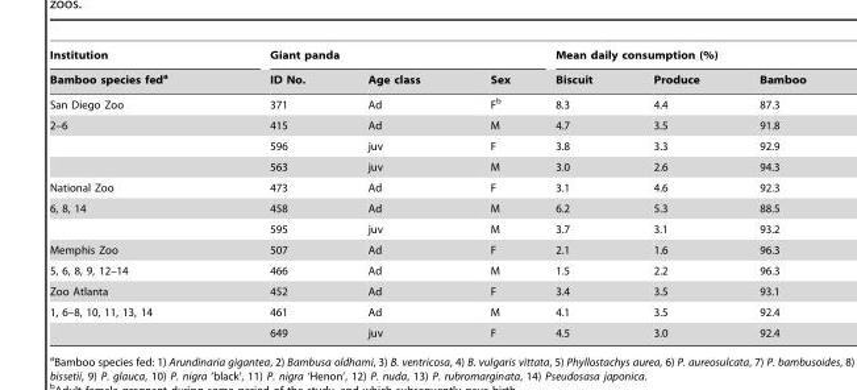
<table><thead><tr><td rowspan="2">Institution Bamboo species fed<sup>a</sup></td><td colspan="3">Giant panda</td><td colspan="3">Mean daily consumption (%)</td></tr><tr><td>ID No.</td><td>Age class</td><td>Sex</td><td>Biscuit</td><td>Produce</td><td>Bamboo</td></tr></thead><tbody><tr><td>San Diego Zoo</td><td>371</td><td>Ad</td><td>F<sup>b</sup></td><td>8.3</td><td>4.4</td><td>87.3</td></tr><tr><td rowspan="3">2–6</td><td>415</td><td>Ad</td><td>M</td><td>4.7</td><td>3.5</td><td>91.8</td></tr><tr><td>596</td><td>juv</td><td>F</td><td>3.8</td><td>3.3</td><td>92.9</td></tr><tr><td>563</td><td>juv</td><td>M</td><td>3.0</td><td>2.6</td><td>94.3</td></tr><tr><td>National Zoo</td><td>473</td><td>Ad</td><td>F</td><td>3.1</td><td>4.6</td><td>92.3</td></tr><tr><td rowspan="2">6, 8, 14</td><td>458</td><td>Ad</td><td>M</td><td>6.2</td><td>5.3</td><td>88.5</td></tr><tr><td>595</td><td>juv</td><td>M</td><td>3.7</td><td>3.1</td><td>93.2</td></tr><tr><td>Memphis Zoo</td><td>507</td><td>Ad</td><td>F</td><td>2.1</td><td>1.6</td><td>96.3</td></tr><tr><td>5, 6, 8, 9, 12–14</td><td>466</td><td>Ad</td><td>M</td><td>1.5</td><td>2.2</td><td>96.3</td></tr><tr><td>Zoo Atlanta</td><td>452</td><td>Ad</td><td>F</td><td>3.4</td><td>3.5</td><td>93.1</td></tr><tr><td rowspan="2">1, 6–8, 10, 11, 13, 14</td><td>461</td><td>Ad</td><td>M</td><td>4.1</td><td>3.5</td><td>92.4</td></tr><tr><td>649</td><td>juv</td><td>F</td><td>4.5</td><td>3.0</td><td>92.4</td></tr></tbody></table>